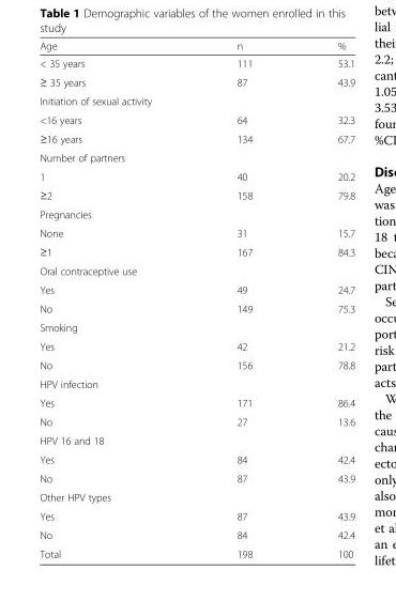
<table><thead><tr><td>Age</td><td>n</td><td>%</td></tr></thead><tbody><tr><td>&lt; 35 years</td><td>111</td><td>53.1</td></tr><tr><td>≥ 35 years</td><td>87</td><td>43.9</td></tr><tr><td colspan="3">Initiation of sexual activity</td></tr><tr><td>&lt;16 years</td><td>64</td><td>32.3</td></tr><tr><td>≥16 years</td><td>134</td><td>67.7</td></tr><tr><td colspan="3">Number of partners</td></tr><tr><td>1</td><td>40</td><td>20.2</td></tr><tr><td>≥2</td><td>158</td><td>79.8</td></tr><tr><td colspan="3">Pregnancies</td></tr><tr><td>None</td><td>31</td><td>15.7</td></tr><tr><td>≥1</td><td>167</td><td>84.3</td></tr><tr><td colspan="3">Oral contraceptive use</td></tr><tr><td>Yes</td><td>49</td><td>24.7</td></tr><tr><td>No</td><td>149</td><td>75.3</td></tr><tr><td colspan="3">Smoking</td></tr><tr><td>Yes</td><td>42</td><td>21.2</td></tr><tr><td>No</td><td>156</td><td>78.8</td></tr><tr><td colspan="3">HPV infection</td></tr><tr><td>Yes</td><td>171</td><td>86.4</td></tr><tr><td>No</td><td>27</td><td>13.6</td></tr><tr><td colspan="3">HPV 16 and 18</td></tr><tr><td>Yes</td><td>84</td><td>42.4</td></tr><tr><td>No</td><td>87</td><td>43.9</td></tr><tr><td colspan="3">Other HPV types</td></tr><tr><td>Yes</td><td>87</td><td>43.9</td></tr><tr><td>No</td><td>84</td><td>42.4</td></tr><tr><td>Total</td><td>198</td><td>100</td></tr></tbody></table>